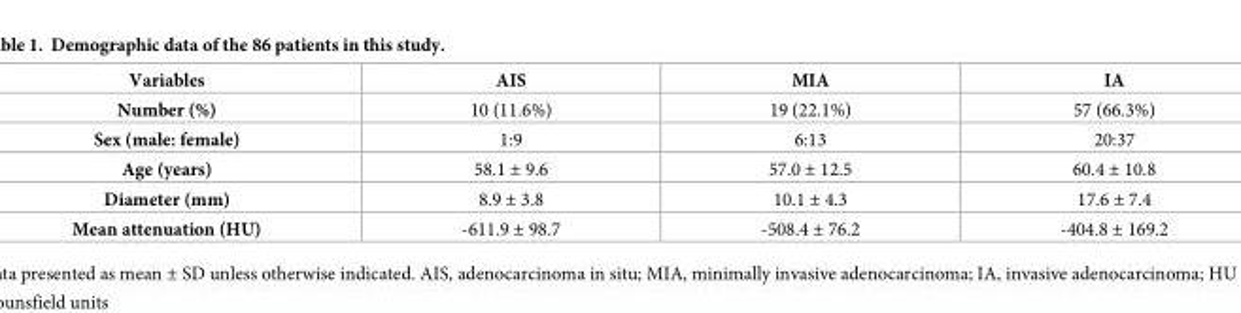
<table><thead><tr><td>Variables</td><td>AIS</td><td>MIA</td><td>IA</td></tr></thead><tbody><tr><td>Number (%)</td><td>10 (11.6%)</td><td>19 (22.1%)</td><td>57 (66.3%)</td></tr><tr><td>Sex (male: female)</td><td>1:9</td><td>6:13</td><td>20:37</td></tr><tr><td>Age (years)</td><td>58.1 ± 9.6</td><td>57.0 ± 12.5</td><td>60.4 ± 10.8</td></tr><tr><td>Diameter (mm)</td><td>8.9 ± 3.8</td><td>10.1 ± 4.3</td><td>17.6 ± 7.4</td></tr><tr><td>Mean attenuation (HU)</td><td>-611.9 ± 98.7</td><td>-508.4 ± 76.2</td><td>-404.8 ± 169.2</td></tr></tbody></table>